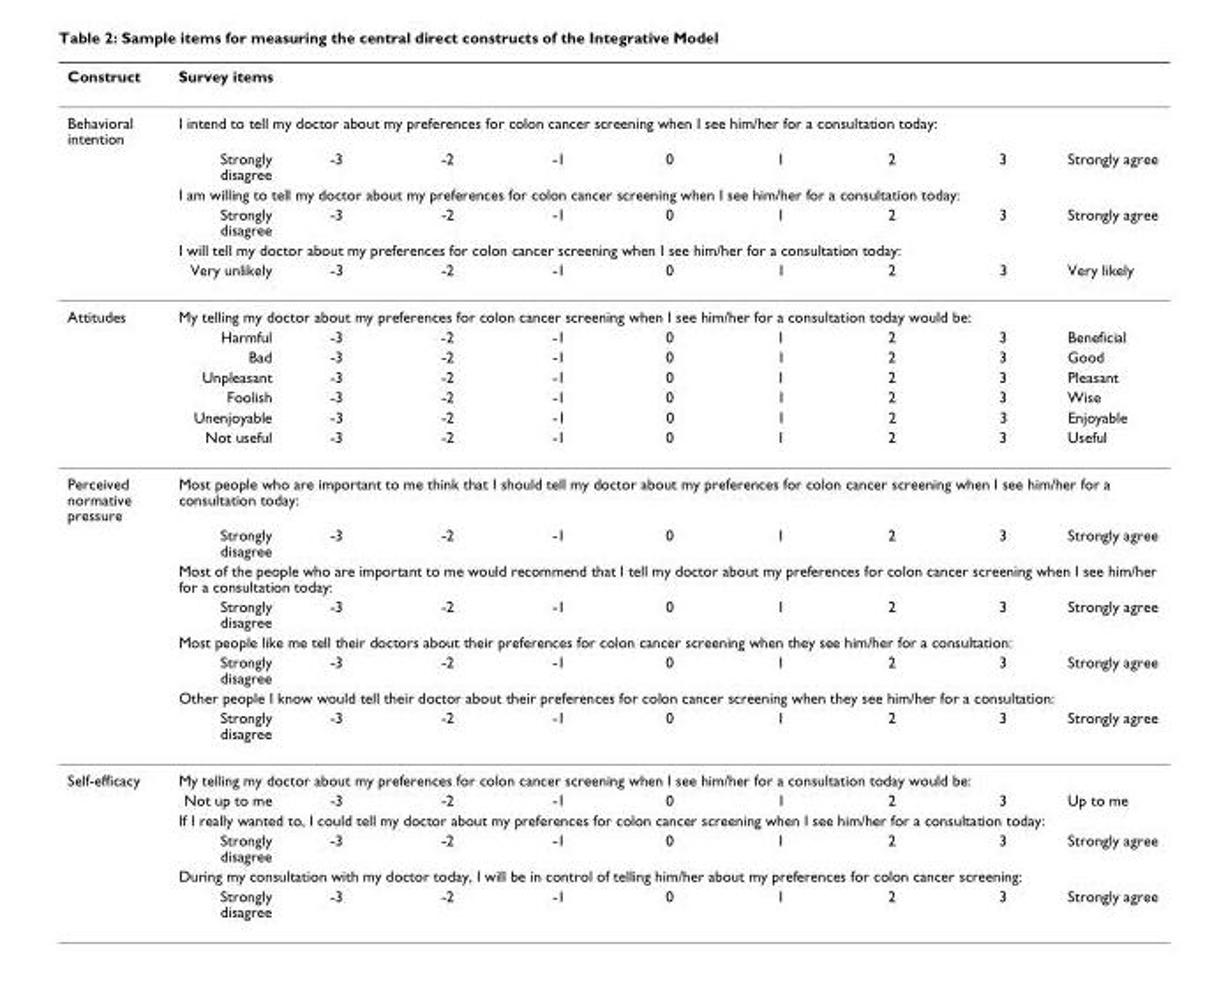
<table><thead><tr><td rowspan="3">Construct Behavioral intention</td><td rowspan="2" colspan="9">Survey items I intend to tell my doctor about my preferences for colon cancer screening when I see him/her for a consultation today:</td></tr><tr></tr><tr><td>Strongly disagree</td><td>-3</td><td>-2</td><td>-1</td><td>0</td><td>1</td><td>2</td><td>3</td><td>Strongly agree</td></tr></thead><tbody><tr><td></td><td colspan="9">I am willing to tell my doctor about my preferences for colon cancer screening when I see him/her for a consultation today:</td></tr><tr><td></td><td>Strongly disagree</td><td>-3</td><td>-2</td><td>-1</td><td>0</td><td>1</td><td>2</td><td>3</td><td>Strongly agree</td></tr><tr><td></td><td colspan="9">I will tell my doctor about my preferences for colon cancer screening when I see him/her for a consultation today:</td></tr><tr><td></td><td>Very unlikely</td><td>-3</td><td>-2</td><td>-1</td><td>0</td><td>1</td><td>2</td><td>3</td><td>Very likely</td></tr><tr><td rowspan="7">Attitudes</td><td colspan="9">My telling my doctor about my preferences for colon cancer screening when I see him/her for a consultation today would be:</td></tr><tr><td>Harmful</td><td>-3</td><td>-2</td><td>-1</td><td>0</td><td>1</td><td>2</td><td>3</td><td>Beneficial</td></tr><tr><td>Bad</td><td>-3</td><td>-2</td><td>-1</td><td>0</td><td>1</td><td>2</td><td>3</td><td>Good</td></tr><tr><td>Unpleasant</td><td>-3</td><td>-2</td><td>-1</td><td>0</td><td>1</td><td>2</td><td>3</td><td>Pleasant</td></tr><tr><td>Foolish</td><td>-3</td><td>-2</td><td>-1</td><td>0</td><td>1</td><td>2</td><td>3</td><td>Wise</td></tr><tr><td>Unenjoyable</td><td>-3</td><td>-2</td><td>-1</td><td>0</td><td>1</td><td>2</td><td>3</td><td>Enjoyable</td></tr><tr><td>Not useful</td><td>-3</td><td>-2</td><td>-1</td><td>0</td><td>1</td><td>2</td><td>3</td><td>Useful</td></tr><tr><td rowspan="8">Perceived normative pressure</td><td colspan="9">Most people who are important to me think that I should tell my doctor about my preferences for colon cancer screening when I see him/her for a consultation today:</td></tr><tr><td>Strongly disagree</td><td>-3</td><td>-2</td><td>-1</td><td>0</td><td>1</td><td>2</td><td>3</td><td>Strongly agree</td></tr><tr><td colspan="9">Most of the people who are important to me would recommend that I tell my doctor about my preferences for colon cancer screening when I see him/her for a consultation today:</td></tr><tr><td>Strongly disagree</td><td>-3</td><td>-2</td><td>-1</td><td>0</td><td>1</td><td>2</td><td>3</td><td>Strongly agree</td></tr><tr><td colspan="9">Most people like me tell their doctors about their preferences for colon cancer screening when they see him/her for a consultation:</td></tr><tr><td>Strongly disagree</td><td>-3</td><td>-2</td><td>-1</td><td>0</td><td>1</td><td>2</td><td>3</td><td>Strongly agree</td></tr><tr><td colspan="9">Other people I know would tell their doctor about their preferences for colon cancer screening when they see him/her for a consultation:</td></tr><tr><td>Strongly disagree</td><td>-3</td><td>-2</td><td>-1</td><td>0</td><td>1</td><td>2</td><td>3</td><td>Strongly agree</td></tr><tr><td rowspan="6">Self-efficacy</td><td colspan="9">My telling my doctor about my preferences for colon cancer screening when I see him/her for a consultation today would be:</td></tr><tr><td>Not up to me</td><td>-3</td><td>-2</td><td>-1</td><td>0</td><td>1</td><td>2</td><td>3</td><td>Up to me</td></tr><tr><td colspan="9">If I really wanted to, I could tell my doctor about my preferences for colon cancer screening when I see him/her for a consultation today:</td></tr><tr><td>Strongly disagree</td><td>-3</td><td>-2</td><td>-1</td><td>0</td><td>1</td><td>2</td><td>3</td><td>Strongly agree</td></tr><tr><td colspan="9">During my consultation with my doctor today, I will be in control of telling him/her about my preferences for colon cancer screening:</td></tr><tr><td>Strongly disagree</td><td>-3</td><td>-2</td><td>-1</td><td>0</td><td>1</td><td>2</td><td>3</td><td>Strongly agree</td></tr></tbody></table>